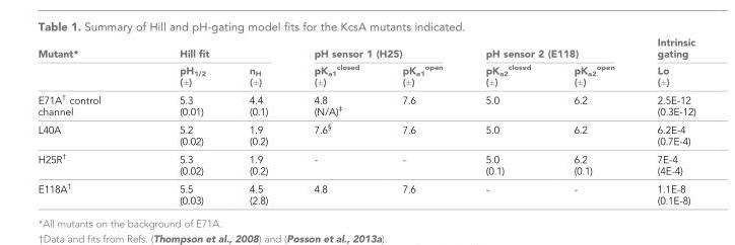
<table><thead><tr><td rowspan="2">Mutant*</td><td colspan="2">Hill fit</td><td colspan="2">pH sensor 1 (H25)</td><td colspan="2">pH sensor 2 (E118)</td><td rowspan="2">Intrinsic gating Lo (±)</td></tr><tr><td>pH<sub>1/2</sub> (±)</td><td>n<sub>H</sub> (±)</td><td>pK<sub>a1</sub> <sup>closed</sup> (±)</td><td>pK<sub>a1</sub> <sup>open</sup> (±)</td><td>pK<sub>a2</sub> <sup>closed</sup> (±)</td><td>pK<sub>a2</sub> <sup>open</sup> (±)</td></tr></thead><tbody><tr><td>E71A<sup>†</sup> control channel</td><td>5.3 (0.01)</td><td>4.4 (0.1)</td><td>4.8 (N/A)<sup>‡</sup></td><td>7.6</td><td>5.0</td><td>6.2</td><td>2.5E-12 (0.3E-12)</td></tr><tr><td>L40A</td><td>5.2 (0.02)</td><td>1.9 (0.2)</td><td>7.6<sup>§</sup></td><td>7.6</td><td>5.0</td><td>6.2</td><td>6.2E-4 (0.7E-4)</td></tr><tr><td>H25R<sup>†</sup></td><td>5.3 (0.02)</td><td>1.9 (0.2)</td><td>-</td><td>-</td><td>5.0 (0.1)</td><td>6.2 (0.1)</td><td>7E-4 (4E-4)</td></tr><tr><td>E118A<sup>†</sup></td><td>5.5 (0.03)</td><td>4.5 (2.8)</td><td>4.8</td><td>7.6</td><td>-</td><td>-</td><td>1.1E-8 (0.1E-8)</td></tr></tbody></table>